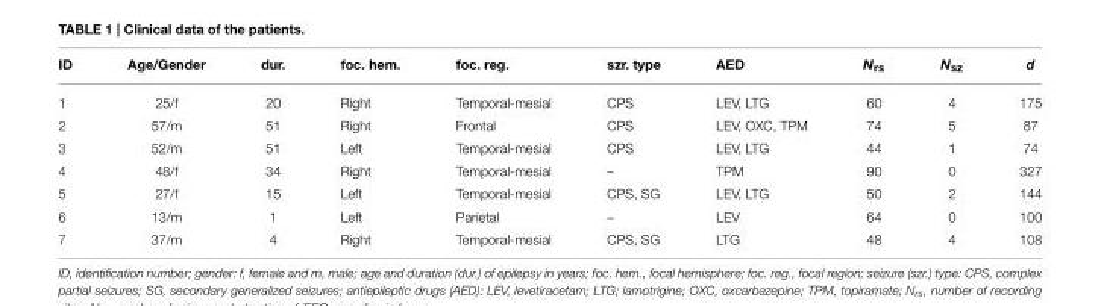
<table><thead><tr><td>ID</td><td>Age/Gender</td><td>dur.</td><td>foc. hem.</td><td>foc. reg.</td><td>szr. type</td><td>AED</td><td>N<sub>rs</sub></td><td>N<sub>sz</sub></td><td>d</td></tr></thead><tbody><tr><td>1</td><td>25/f</td><td>20</td><td>Right</td><td>Temporal-mesial</td><td>CPS</td><td>LEV, LTG</td><td>60</td><td>4</td><td>175</td></tr><tr><td>2</td><td>57/m</td><td>51</td><td>Right</td><td>Frontal</td><td>CPS</td><td>LEV, OXC, TPM</td><td>74</td><td>5</td><td>87</td></tr><tr><td>3</td><td>52/m</td><td>51</td><td>Left</td><td>Temporal-mesial</td><td>CPS</td><td>LEV, LTG</td><td>44</td><td>1</td><td>74</td></tr><tr><td>4</td><td>48/f</td><td>34</td><td>Right</td><td>Temporal-mesial</td><td>–</td><td>TPM</td><td>90</td><td>0</td><td>327</td></tr><tr><td>5</td><td>27/f</td><td>15</td><td>Left</td><td>Temporal-mesial</td><td>CPS, SG</td><td>LEV, LTG</td><td>50</td><td>2</td><td>144</td></tr><tr><td>6</td><td>13/m</td><td>1</td><td>Left</td><td>Parietal</td><td>–</td><td>LEV</td><td>64</td><td>0</td><td>100</td></tr><tr><td>7</td><td>37/m</td><td>4</td><td>Right</td><td>Temporal-mesial</td><td>CPS, SG</td><td>LTG</td><td>48</td><td>4</td><td>108</td></tr></tbody></table>